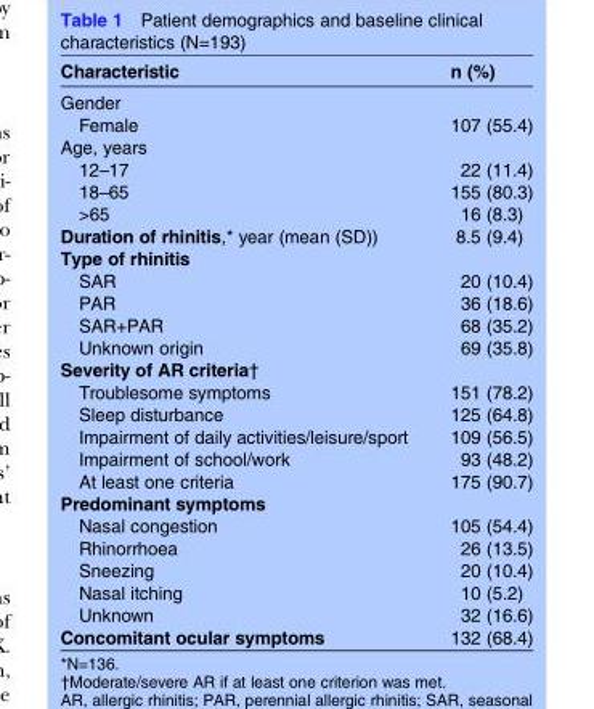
<table><thead><tr><td>Characteristic</td><td>n (%)</td></tr></thead><tbody><tr><td colspan="2">Gender</td></tr><tr><td>Female</td><td>107 (55.4)</td></tr><tr><td colspan="2">Age, years</td></tr><tr><td>12–17</td><td>22 (11.4)</td></tr><tr><td>18–65</td><td>155 (80.3)</td></tr><tr><td>&gt;65</td><td>16 (8.3)</td></tr><tr><td>Duration of rhinitis,* year (mean (SD))</td><td>8.5 (9.4)</td></tr><tr><td colspan="2">Type of rhinitis</td></tr><tr><td>SAR</td><td>20 (10.4)</td></tr><tr><td>PAR</td><td>36 (18.6)</td></tr><tr><td>SAR+PAR</td><td>68 (35.2)</td></tr><tr><td>Unknown origin</td><td>69 (35.8)</td></tr><tr><td colspan="2">Severity of AR criteria†</td></tr><tr><td>Troublesome symptoms</td><td>151 (78.2)</td></tr><tr><td>Sleep disturbance</td><td>125 (64.8)</td></tr><tr><td>Impairment of daily activities/leisure/sport</td><td>109 (56.5)</td></tr><tr><td>Impairment of school/work</td><td>93 (48.2)</td></tr><tr><td>At least one criteria</td><td>175 (90.7)</td></tr><tr><td colspan="2">Predominant symptoms</td></tr><tr><td>Nasal congestion</td><td>105 (54.4)</td></tr><tr><td>Rhinorrhoea</td><td>26 (13.5)</td></tr><tr><td>Sneezing</td><td>20 (10.4)</td></tr><tr><td>Nasal itching</td><td>10 (5.2)</td></tr><tr><td>Unknown</td><td>32 (16.6)</td></tr><tr><td>Concomitant ocular symptoms</td><td>132 (68.4)</td></tr></tbody></table>